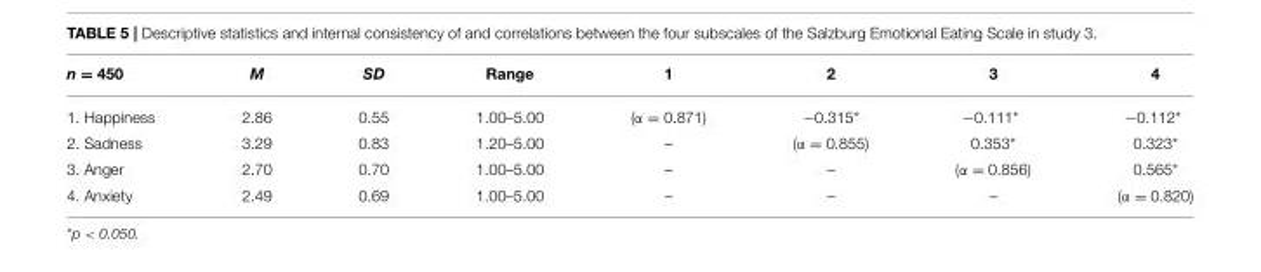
<table><thead><tr><td>n = 450</td><td>M</td><td>SD</td><td>Range</td><td>1</td><td>2</td><td>3</td><td>4</td></tr></thead><tbody><tr><td>1. Happiness</td><td>2.86</td><td>0.55</td><td>1.00–5.00</td><td>(α = 0.871)</td><td>−0.315*</td><td>−0.111*</td><td>−0.112*</td></tr><tr><td>2. Sadness</td><td>3.29</td><td>0.83</td><td>1.20–5.00</td><td>–</td><td>(α = 0.855)</td><td>0.353*</td><td>0.323*</td></tr><tr><td>3. Anger</td><td>2.70</td><td>0.70</td><td>1.00–5.00</td><td>–</td><td>–</td><td>(α = 0.856)</td><td>0.565*</td></tr><tr><td>4. Anxiety</td><td>2.49</td><td>0.69</td><td>1.00–5.00</td><td>–</td><td>–</td><td>–</td><td>(α = 0.820)</td></tr></tbody></table>